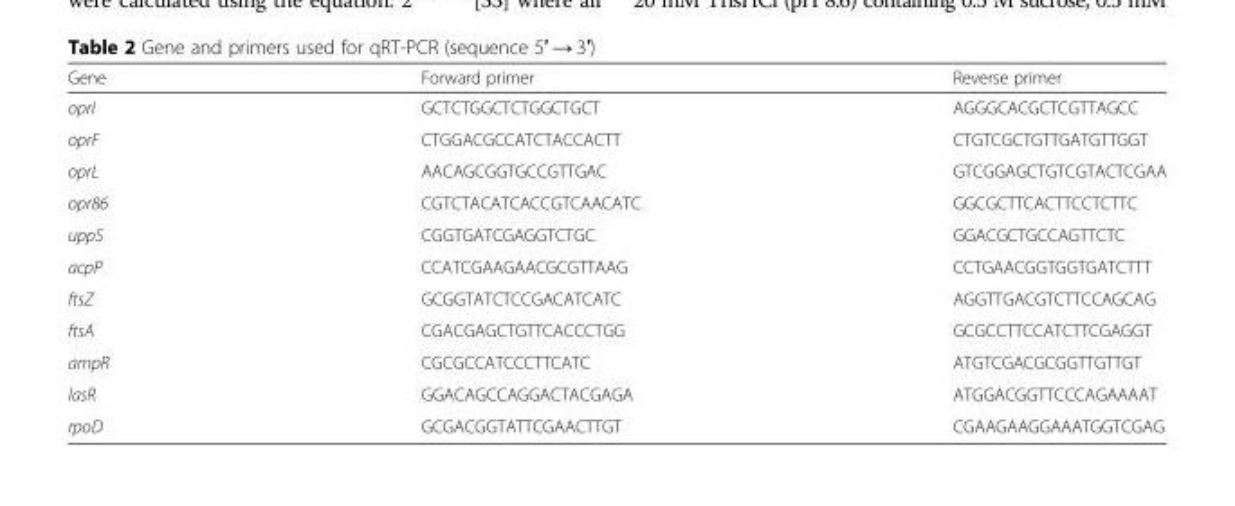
<table><thead><tr><td>Gene</td><td>Forward primer</td><td>Reverse primer</td></tr></thead><tbody><tr><td>oprI</td><td>GCTCTGGCTCTGGCTGCT</td><td>AGGGCACGCTCGTTAGCC</td></tr><tr><td>oprF</td><td>CTGGACGCCATCTACCACTT</td><td>CTGTCGCTGTTGATGTTGGT</td></tr><tr><td>oprL</td><td>AACAGCGGTGCCGTTGAC</td><td>GTCGGAGCTGTCGTACTCGAA</td></tr><tr><td>opr86</td><td>CGTCTACATCACCGTCAACATC</td><td>GGCGCTTCACTTCCTCTTC</td></tr><tr><td>uppS</td><td>CGGTGATCGAGGTCTGC</td><td>GGACGCTGCCAGTTCTC</td></tr><tr><td>acpP</td><td>CCATCGAAGAACGCGTTAAG</td><td>CCTGAACGGTGGTGATCTTT</td></tr><tr><td>ftsZ</td><td>GCGGTATCTCCGACATCATC</td><td>AGGTTGACGTCTTCCAGCAG</td></tr><tr><td>ftsA</td><td>CGACGAGCTGTTCACCCTGG</td><td>GCGCCTTCCATCTTCGAGGT</td></tr><tr><td>ampR</td><td>CGCGCCATCCCTTCATC</td><td>ATGTCGACGCGGTTGTTGT</td></tr><tr><td>lasR</td><td>GGACAGCCAGGACTACGAGA</td><td>ATGGACGGTTCCCAGAAAAT</td></tr><tr><td>rpoD</td><td>GCGACGGTATTCGAACTTGT</td><td>CGAAGAAGGAAATGGTCGAG</td></tr></tbody></table>